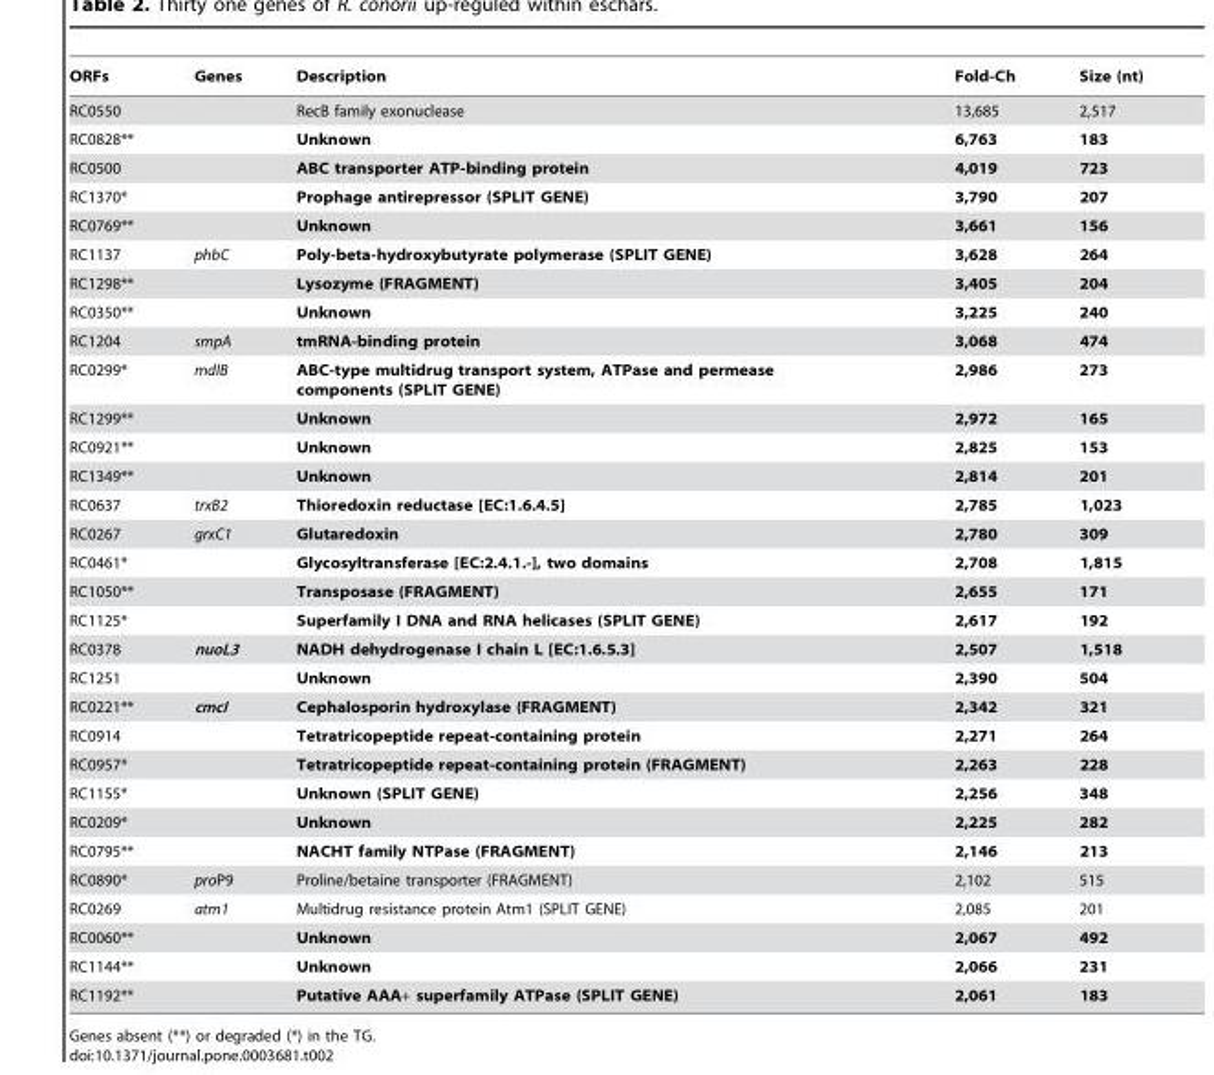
<table><thead><tr><td>ORFs</td><td>Genes</td><td>Description</td><td>Fold-Ch</td><td>Size (nt)</td></tr></thead><tbody><tr><td>RC0550</td><td></td><td>RecB family exonuclease</td><td>13,685</td><td>2,517</td></tr><tr><td>RC0828**</td><td></td><td>Unknown</td><td>6,763</td><td>183</td></tr><tr><td>RC0500</td><td></td><td>ABC transporter ATP-binding protein</td><td>4,019</td><td>723</td></tr><tr><td>RC1370*</td><td></td><td>Prophage antirepressor (SPLIT GENE)</td><td>3,790</td><td>207</td></tr><tr><td>RC0769**</td><td></td><td>Unknown</td><td>3,661</td><td>156</td></tr><tr><td>RC1137</td><td>phbC</td><td>Poly-beta-hydroxybutyrate polymerase (SPLIT GENE)</td><td>3,628</td><td>264</td></tr><tr><td>RC1298**</td><td></td><td>Lysozyme (FRAGMENT)</td><td>3,405</td><td>204</td></tr><tr><td>RC0350**</td><td></td><td>Unknown</td><td>3,225</td><td>240</td></tr><tr><td>RC1204</td><td>smpA</td><td>tmRNA-binding protein</td><td>3,068</td><td>474</td></tr><tr><td>RC0299*</td><td>mdlB</td><td>ABC-type multidrug transport system, ATPase and permease components (SPLIT GENE)</td><td>2,986</td><td>273</td></tr><tr><td>RC1299**</td><td></td><td>Unknown</td><td>2,972</td><td>165</td></tr><tr><td>RC0921**</td><td></td><td>Unknown</td><td>2,825</td><td>153</td></tr><tr><td>RC1349**</td><td></td><td>Unknown</td><td>2,814</td><td>201</td></tr><tr><td>RC0637</td><td>trxB2</td><td>Thioredoxin reductase [EC:1.6.4.5]</td><td>2,785</td><td>1,023</td></tr><tr><td>RC0267</td><td>grxC1</td><td>Glutaredoxin</td><td>2,780</td><td>309</td></tr><tr><td>RC0461*</td><td></td><td>Glycosyltransferase [EC:2.4.1.-], two domains</td><td>2,708</td><td>1,815</td></tr><tr><td>RC1050**</td><td></td><td>Transposase (FRAGMENT)</td><td>2,655</td><td>171</td></tr><tr><td>RC1125*</td><td></td><td>Superfamily I DNA and RNA helicases (SPLIT GENE)</td><td>2,617</td><td>192</td></tr><tr><td>RC0378</td><td>nuoL3</td><td>NADH dehydrogenase I chain L [EC:1.6.5.3]</td><td>2,507</td><td>1,518</td></tr><tr><td>RC1251</td><td></td><td>Unknown</td><td>2,390</td><td>504</td></tr><tr><td>RC0221**</td><td>cmcI</td><td>Cephalosporin hydroxylase (FRAGMENT)</td><td>2,342</td><td>321</td></tr><tr><td>RC0914</td><td></td><td>Tetratricopeptide repeat-containing protein</td><td>2,271</td><td>264</td></tr><tr><td>RC0957*</td><td></td><td>Tetratricopeptide repeat-containing protein (FRAGMENT)</td><td>2,263</td><td>228</td></tr><tr><td>RC1155*</td><td></td><td>Unknown (SPLIT GENE)</td><td>2,256</td><td>348</td></tr><tr><td>RC0209*</td><td></td><td>Unknown</td><td>2,225</td><td>282</td></tr><tr><td>RC0795**</td><td></td><td>NACHT family NTPase (FRAGMENT)</td><td>2,146</td><td>213</td></tr><tr><td>RC0890*</td><td>proP9</td><td>Proline/betaine transporter (FRAGMENT)</td><td>2,102</td><td>515</td></tr><tr><td>RC0269</td><td>atm1</td><td>Multidrug resistance protein Atm1 (SPLIT GENE)</td><td>2,085</td><td>201</td></tr><tr><td>RC0060**</td><td></td><td>Unknown</td><td>2,067</td><td>492</td></tr><tr><td>RC1144**</td><td></td><td>Unknown</td><td>2,066</td><td>231</td></tr><tr><td>RC1192**</td><td></td><td>Putative AAA+ superfamily ATPase (SPLIT GENE)</td><td>2,061</td><td>183</td></tr></tbody></table>